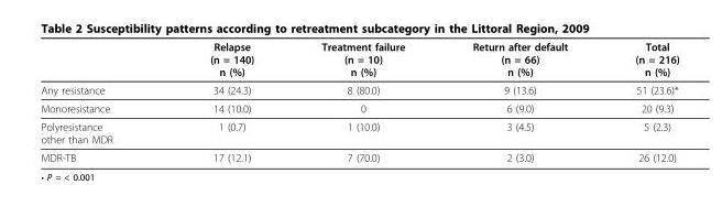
<table><thead><tr><td></td><td>Relapse (n = 140) n (%)</td><td>Treatment failure (n = 10) n (%)</td><td>Return after default (n = 66) n (%)</td><td>Total (n = 216) n (%)</td></tr></thead><tbody><tr><td>Any resistance</td><td>34 (24.3)</td><td>8 (80.0)</td><td>9 (13.6)</td><td>51 (23.6)*</td></tr><tr><td>Monoresistance</td><td>14 (10.0)</td><td>0</td><td>6 (9.0)</td><td>20 (9.3)</td></tr><tr><td>Polyresistance other than MDR</td><td>1 (0.7)</td><td>1 (10.0)</td><td>3 (4.5)</td><td>5 (2.3)</td></tr><tr><td>MDR-TB</td><td>17 (12.1)</td><td>7 (70.0)</td><td>2 (3.0)</td><td>26 (12.0)</td></tr></tbody></table>